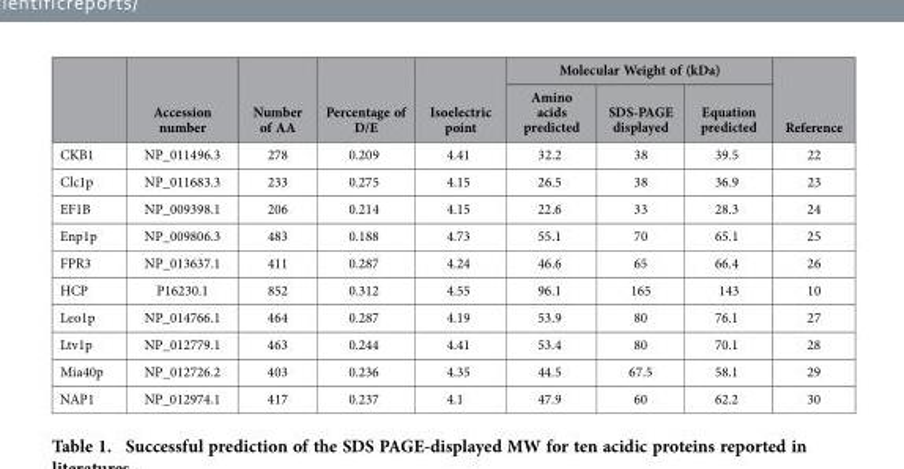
<table><thead><tr><td rowspan="2"></td><td rowspan="2">Accession number</td><td rowspan="2">Number of AA</td><td rowspan="2">Percentage of D/E</td><td rowspan="2">Isoelectric point</td><td colspan="3">Molecular Weight of (kDa)</td><td rowspan="2">Reference</td></tr><tr><td>Amino acids predicted</td><td>SDS-PAGE displayed</td><td>Equation predicted</td></tr></thead><tbody><tr><td>CKB1</td><td>NP_011496.3</td><td>278</td><td>0.209</td><td>4.41</td><td>32.2</td><td>38</td><td>39.5</td><td>22</td></tr><tr><td>Clc1p</td><td>NP_011683.3</td><td>233</td><td>0.275</td><td>4.15</td><td>26.5</td><td>38</td><td>36.9</td><td>23</td></tr><tr><td>EF1B</td><td>NP_009398.1</td><td>206</td><td>0.214</td><td>4.15</td><td>22.6</td><td>33</td><td>28.3</td><td>24</td></tr><tr><td>Enp1p</td><td>NP_009806.3</td><td>483</td><td>0.188</td><td>4.73</td><td>55.1</td><td>70</td><td>65.1</td><td>25</td></tr><tr><td>FPR3</td><td>NP_013637.1</td><td>411</td><td>0.287</td><td>4.24</td><td>46.6</td><td>65</td><td>66.4</td><td>26</td></tr><tr><td>HCP</td><td>P16230.1</td><td>852</td><td>0.312</td><td>4.55</td><td>96.1</td><td>165</td><td>143</td><td>10</td></tr><tr><td>Leo1p</td><td>NP_014766.1</td><td>464</td><td>0.287</td><td>4.19</td><td>53.9</td><td>80</td><td>76.1</td><td>27</td></tr><tr><td>Ltv1p</td><td>NP_012779.1</td><td>463</td><td>0.244</td><td>4.41</td><td>53.4</td><td>80</td><td>70.1</td><td>28</td></tr><tr><td>Mia40p</td><td>NP_012726.2</td><td>403</td><td>0.236</td><td>4.35</td><td>44.5</td><td>67.5</td><td>58.1</td><td>29</td></tr><tr><td>NAP1</td><td>NP_012974.1</td><td>417</td><td>0.237</td><td>4.1</td><td>47.9</td><td>60</td><td>62.2</td><td>30</td></tr></tbody></table>